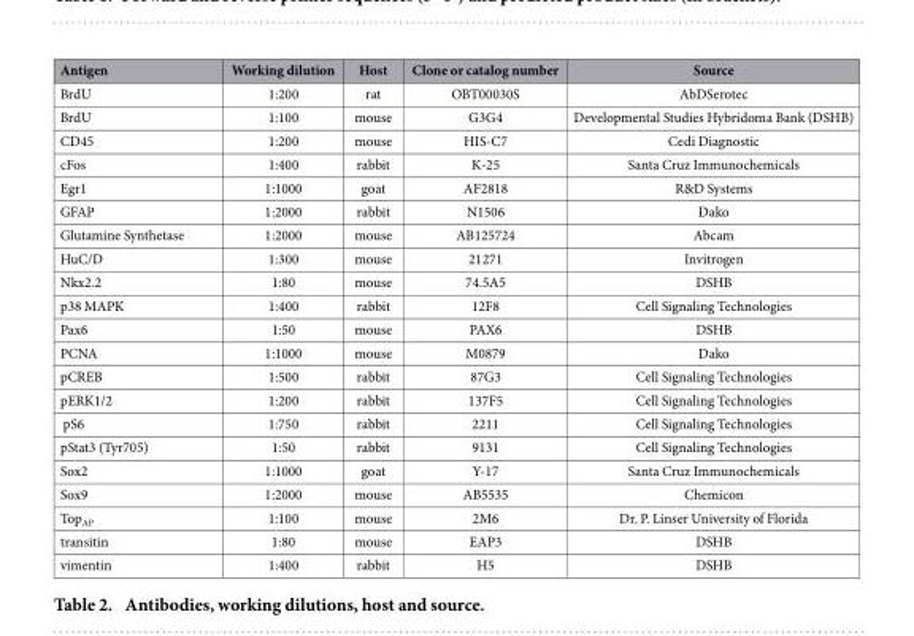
<table><thead><tr><td>Antigen</td><td>Working dilution</td><td>Host</td><td>Clone or catalog number</td><td>Source</td></tr></thead><tbody><tr><td>BrdU</td><td>1:200</td><td>rat</td><td>OBT00030S</td><td>AbDSerotec</td></tr><tr><td>BrdU</td><td>1:100</td><td>mouse</td><td>G3G4</td><td>Developmental Studies Hybridoma Bank (DSHB)</td></tr><tr><td>CD45</td><td>1:200</td><td>mouse</td><td>HIS-C7</td><td>Cedi Diagnostic</td></tr><tr><td>cFos</td><td>1:400</td><td>rabbit</td><td>K-25</td><td>Santa Cruz Immunochemicals</td></tr><tr><td>Egr1</td><td>1:1000</td><td>goat</td><td>AF2818</td><td>R&amp;D Systems</td></tr><tr><td>GFAP</td><td>1:2000</td><td>rabbit</td><td>N1506</td><td>Dako</td></tr><tr><td>Glutamine Synthetase</td><td>1:2000</td><td>mouse</td><td>AB125724</td><td>Abcam</td></tr><tr><td>HuC/D</td><td>1:300</td><td>mouse</td><td>21271</td><td>Invitrogen</td></tr><tr><td>Nkx2.2</td><td>1:80</td><td>mouse</td><td>74.5A5</td><td>DSHB</td></tr><tr><td>p38 MAPK</td><td>1:400</td><td>rabbit</td><td>12F8</td><td>Cell Signaling Technologies</td></tr><tr><td>Pax6</td><td>1:50</td><td>mouse</td><td>PAX6</td><td>DSHB</td></tr><tr><td>PCNA</td><td>1:1000</td><td>mouse</td><td>M0879</td><td>Dako</td></tr><tr><td>pCREB</td><td>1:500</td><td>rabbit</td><td>87G3</td><td>Cell Signaling Technologies</td></tr><tr><td>pERK1/2</td><td>1:200</td><td>rabbit</td><td>137F5</td><td>Cell Signaling Technologies</td></tr><tr><td>pS6</td><td>1:750</td><td>rabbit</td><td>2211</td><td>Cell Signaling Technologies</td></tr><tr><td>pStat3 (Tyr705)</td><td>1:50</td><td>rabbit</td><td>9131</td><td>Cell Signaling Technologies</td></tr><tr><td>Sox2</td><td>1:1000</td><td>goat</td><td>Y-17</td><td>Santa Cruz Immunochemicals</td></tr><tr><td>Sox9</td><td>1:2000</td><td>mouse</td><td>AB5535</td><td>Chemicon</td></tr><tr><td>Top<sub>AP</sub></td><td>1:100</td><td>mouse</td><td>2M6</td><td>Dr. P. Linser University of Florida</td></tr><tr><td>transitin</td><td>1:80</td><td>mouse</td><td>EAP3</td><td>DSHB</td></tr><tr><td>vimentin</td><td>1:400</td><td>rabbit</td><td>H5</td><td>DSHB</td></tr></tbody></table>